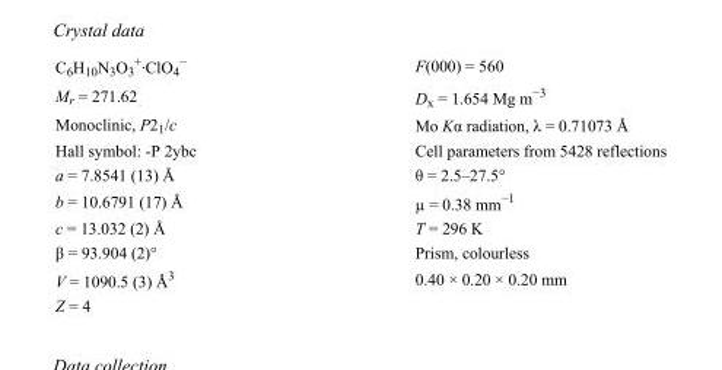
<table><tbody><tr><td>C<sub>6</sub>H<sub>10</sub>N<sub>3</sub>O<sub>3</sub> <sup>+</sup>·ClO<sub>4</sub> <sup>−</sup></td><td>F(000) = 560</td></tr><tr><td>M<sub>r</sub> = 271.62</td><td>D<sub>x</sub> = 1.654 Mg m<sup>−3</sup></td></tr><tr><td>Monoclinic, P2<sub>1</sub>/c</td><td>Mo Kα radiation, λ = 0.71073 Å</td></tr><tr><td>Hall symbol: -P 2ybc</td><td>Cell parameters from 5428 reflections</td></tr><tr><td>a = 7.8541 (13) Å</td><td>θ = 2.5–27.5°</td></tr><tr><td>b = 10.6791 (17) Å</td><td>µ = 0.38 mm<sup>−1</sup></td></tr><tr><td>c = 13.032 (2) Å</td><td>T = 296 K</td></tr><tr><td>β = 93.904 (2)°</td><td>Prism, colourless</td></tr><tr><td>V = 1090.5 (3) Å<sup>3</sup></td><td>0.40 × 0.20 × 0.20 mm</td></tr><tr><td>Z = 4</td><td></td></tr></tbody></table>